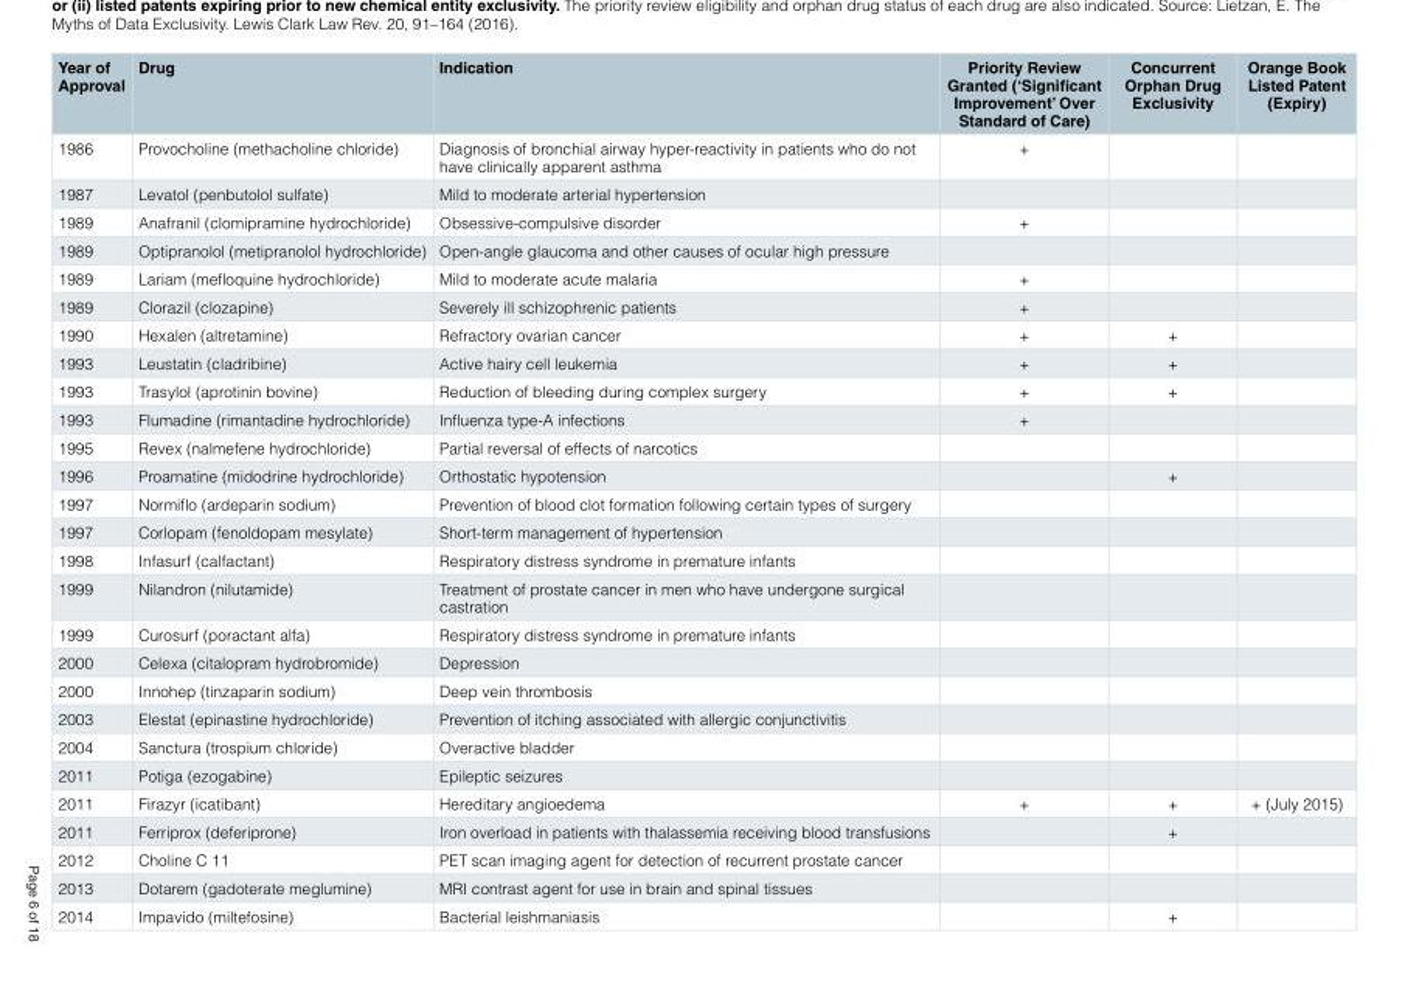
<table><thead><tr><td>Year of Approval</td><td>Drug</td><td>Indication</td><td>Priority Review Granted (‘Significant Improvement’ Over Standard of Care)</td><td>Concurrent Orphan Drug Exclusivity</td><td>Orange Book Listed Patent (Expiry)</td></tr></thead><tbody><tr><td>1986</td><td>Provocholine (methacholine chloride)</td><td>Diagnosis of bronchial airway hyper-reactivity in patients who do not have clinically apparent asthma</td><td>+</td><td></td><td></td></tr><tr><td>1987</td><td>Levatol (penbutolol sulfate)</td><td>Mild to moderate arterial hypertension</td><td></td><td></td><td></td></tr><tr><td>1989</td><td>Anafranil (clomipramine hydrochloride)</td><td>Obsessive-compulsive disorder</td><td>+</td><td></td><td></td></tr><tr><td>1989</td><td>Optipranolol (metipranolol hydrochloride)</td><td>Open-angle glaucoma and other causes of ocular high pressure</td><td></td><td></td><td></td></tr><tr><td>1989</td><td>Lariam (mefloquine hydrochloride)</td><td>Mild to moderate acute malaria</td><td>+</td><td></td><td></td></tr><tr><td>1989</td><td>Clorazil (clozapine)</td><td>Severely ill schizophrenic patients</td><td>+</td><td></td><td></td></tr><tr><td>1990</td><td>Hexalen (altretamine)</td><td>Refractory ovarian cancer</td><td>+</td><td>+</td><td></td></tr><tr><td>1993</td><td>Leustatin (cladribine)</td><td>Active hairy cell leukemia</td><td>+</td><td>+</td><td></td></tr><tr><td>1993</td><td>Trasylol (aprotinin bovine)</td><td>Reduction of bleeding during complex surgery</td><td>+</td><td>+</td><td></td></tr><tr><td>1993</td><td>Flumadine (rimantadine hydrochloride)</td><td>Influenza type-A infections</td><td>+</td><td></td><td></td></tr><tr><td>1995</td><td>Revex (nalmefene hydrochloride)</td><td>Partial reversal of effects of narcotics</td><td></td><td></td><td></td></tr><tr><td>1996</td><td>Proamatine (midodrine hydrochloride)</td><td>Orthostatic hypotension</td><td></td><td>+</td><td></td></tr><tr><td>1997</td><td>Normiflo (ardeparin sodium)</td><td>Prevention of blood clot formation following certain types of surgery</td><td></td><td></td><td></td></tr><tr><td>1997</td><td>Corlopam (fenoldopam mesylate)</td><td>Short-term management of hypertension</td><td></td><td></td><td></td></tr><tr><td>1998</td><td>Infasurf (calfactant)</td><td>Respiratory distress syndrome in premature infants</td><td></td><td></td><td></td></tr><tr><td>1999</td><td>Nilandron (nilutamide)</td><td>Treatment of prostate cancer in men who have undergone surgical castration</td><td></td><td></td><td></td></tr><tr><td>1999</td><td>Curosurf (poractant alfa)</td><td>Respiratory distress syndrome in premature infants</td><td></td><td></td><td></td></tr><tr><td>2000</td><td>Celexa (citalopram hydrobromide)</td><td>Depression</td><td></td><td></td><td></td></tr><tr><td>2000</td><td>Innohep (tinzaparin sodium)</td><td>Deep vein thrombosis</td><td></td><td></td><td></td></tr><tr><td>2003</td><td>Elestat (epinastine hydrochloride)</td><td>Prevention of itching associated with allergic conjunctivitis</td><td></td><td></td><td></td></tr><tr><td>2004</td><td>Sanctura (trospium chloride)</td><td>Overactive bladder</td><td></td><td></td><td></td></tr><tr><td>2011</td><td>Potiga (ezogabine)</td><td>Epileptic seizures</td><td></td><td></td><td></td></tr><tr><td>2011</td><td>Firazyr (icatibant)</td><td>Hereditary angioedema</td><td>+</td><td>+</td><td>+ (July 2015)</td></tr><tr><td>2011</td><td>Ferriprox (deferiprone)</td><td>Iron overload in patients with thalassemia receiving blood transfusions</td><td></td><td>+</td><td></td></tr><tr><td>2012</td><td>Choline C 11</td><td>PET scan imaging agent for detection of recurrent prostate cancer</td><td></td><td></td><td></td></tr><tr><td>2013</td><td>Dotarem (gadoterate meglumine)</td><td>MRI contrast agent for use in brain and spinal tissues</td><td></td><td></td><td></td></tr><tr><td>2014</td><td>Impavido (miltefosine)</td><td>Bacterial leishmaniasis</td><td></td><td>+</td><td></td></tr></tbody></table>